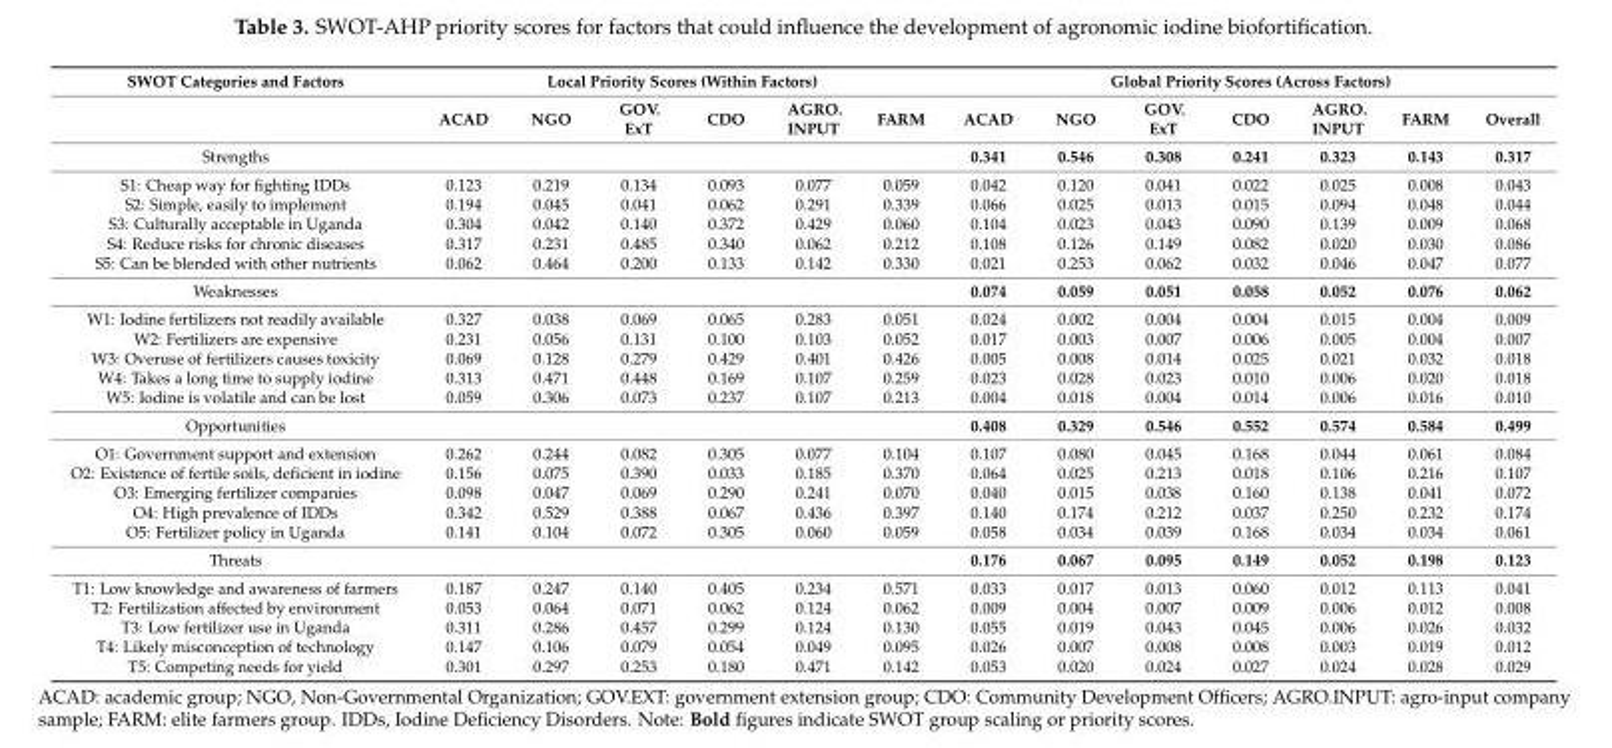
<table><thead><tr><td rowspan="2">SWOT Categories and Factors</td><td colspan="6">Local Priority Scores (Within Factors)</td><td colspan="7">Global Priority Scores (Across Factors)</td></tr><tr><td>ACAD</td><td>NGO</td><td>GOV. ExT</td><td>CDO</td><td>AGRO. INPUT</td><td>FARM</td><td>ACAD</td><td>NGO</td><td>GOV. ExT</td><td>CDO</td><td>AGRO. INPUT</td><td>FARM</td><td>Overall</td></tr></thead><tbody><tr><td>Strengths</td><td></td><td></td><td></td><td></td><td></td><td></td><td>0.341</td><td>0.546</td><td>0.308</td><td>0.241</td><td>0.323</td><td>0.143</td><td>0.317</td></tr><tr><td>S1: Cheap way for fighting IDDs</td><td>0.123</td><td>0.219</td><td>0.134</td><td>0.093</td><td>0.077</td><td>0.059</td><td>0.042</td><td>0.120</td><td>0.041</td><td>0.022</td><td>0.025</td><td>0.008</td><td>0.043</td></tr><tr><td>S2: Simple, easily to implement</td><td>0.194</td><td>0.045</td><td>0.041</td><td>0.062</td><td>0.291</td><td>0.339</td><td>0.066</td><td>0.025</td><td>0.013</td><td>0.015</td><td>0.094</td><td>0.048</td><td>0.044</td></tr><tr><td>S3: Culturally acceptable in Uganda</td><td>0.304</td><td>0.042</td><td>0.140</td><td>0.372</td><td>0.429</td><td>0.060</td><td>0.104</td><td>0.023</td><td>0.043</td><td>0.090</td><td>0.139</td><td>0.009</td><td>0.068</td></tr><tr><td>S4: Reduce risks for chronic diseases</td><td>0.317</td><td>0.231</td><td>0.485</td><td>0.340</td><td>0.062</td><td>0.212</td><td>0.108</td><td>0.126</td><td>0.149</td><td>0.082</td><td>0.020</td><td>0.030</td><td>0.086</td></tr><tr><td>S5: Can be blended with other nutrients</td><td>0.062</td><td>0.464</td><td>0.200</td><td>0.133</td><td>0.142</td><td>0.330</td><td>0.021</td><td>0.253</td><td>0.062</td><td>0.032</td><td>0.046</td><td>0.047</td><td>0.077</td></tr><tr><td>Weaknesses</td><td></td><td></td><td></td><td></td><td></td><td></td><td>0.074</td><td>0.059</td><td>0.051</td><td>0.058</td><td>0.052</td><td>0.076</td><td>0.062</td></tr><tr><td>W1: Iodine fertilizers not readily available</td><td>0.327</td><td>0.038</td><td>0.069</td><td>0.065</td><td>0.283</td><td>0.051</td><td>0.024</td><td>0.002</td><td>0.004</td><td>0.004</td><td>0.015</td><td>0.004</td><td>0.009</td></tr><tr><td>W2: Fertilizers are expensive</td><td>0.231</td><td>0.056</td><td>0.131</td><td>0.100</td><td>0.103</td><td>0.052</td><td>0.017</td><td>0.003</td><td>0.007</td><td>0.006</td><td>0.005</td><td>0.004</td><td>0.007</td></tr><tr><td>W3: Overuse of fertilizers causes toxicity</td><td>0.069</td><td>0.128</td><td>0.279</td><td>0.429</td><td>0.401</td><td>0.426</td><td>0.005</td><td>0.008</td><td>0.014</td><td>0.025</td><td>0.021</td><td>0.032</td><td>0.018</td></tr><tr><td>W4: Takes a long time to supply iodine</td><td>0.313</td><td>0.471</td><td>0.448</td><td>0.169</td><td>0.107</td><td>0.259</td><td>0.023</td><td>0.028</td><td>0.023</td><td>0.010</td><td>0.006</td><td>0.020</td><td>0.018</td></tr><tr><td>W5: Iodine is volatile and can be lost</td><td>0.059</td><td>0.306</td><td>0.073</td><td>0.237</td><td>0.107</td><td>0.213</td><td>0.004</td><td>0.018</td><td>0.004</td><td>0.014</td><td>0.006</td><td>0.016</td><td>0.010</td></tr><tr><td>Opportunities</td><td></td><td></td><td></td><td></td><td></td><td></td><td>0.408</td><td>0.329</td><td>0.546</td><td>0.552</td><td>0.574</td><td>0.584</td><td>0.499</td></tr><tr><td>O1: Government support and extension</td><td>0.262</td><td>0.244</td><td>0.082</td><td>0.305</td><td>0.077</td><td>0.104</td><td>0.107</td><td>0.080</td><td>0.045</td><td>0.168</td><td>0.044</td><td>0.061</td><td>0.084</td></tr><tr><td>O2: Existence of fertile soils, deficient in iodine</td><td>0.156</td><td>0.075</td><td>0.390</td><td>0.033</td><td>0.185</td><td>0.370</td><td>0.064</td><td>0.025</td><td>0.213</td><td>0.018</td><td>0.106</td><td>0.216</td><td>0.107</td></tr><tr><td>O3: Emerging fertilizer companies</td><td>0.098</td><td>0.047</td><td>0.069</td><td>0.290</td><td>0.241</td><td>0.070</td><td>0.040</td><td>0.015</td><td>0.038</td><td>0.160</td><td>0.138</td><td>0.041</td><td>0.072</td></tr><tr><td>O4: High prevalence of IDDs</td><td>0.342</td><td>0.529</td><td>0.388</td><td>0.067</td><td>0.436</td><td>0.397</td><td>0.140</td><td>0.174</td><td>0.212</td><td>0.037</td><td>0.250</td><td>0.232</td><td>0.174</td></tr><tr><td>O5: Fertilizer policy in Uganda</td><td>0.141</td><td>0.104</td><td>0.072</td><td>0.305</td><td>0.060</td><td>0.059</td><td>0.058</td><td>0.034</td><td>0.039</td><td>0.168</td><td>0.034</td><td>0.034</td><td>0.061</td></tr><tr><td>Threats</td><td></td><td></td><td></td><td></td><td></td><td></td><td>0.176</td><td>0.067</td><td>0.095</td><td>0.149</td><td>0.052</td><td>0.198</td><td>0.123</td></tr><tr><td>T1: Low knowledge and awareness of farmers</td><td>0.187</td><td>0.247</td><td>0.140</td><td>0.405</td><td>0.234</td><td>0.571</td><td>0.033</td><td>0.017</td><td>0.013</td><td>0.060</td><td>0.012</td><td>0.113</td><td>0.041</td></tr><tr><td>T2: Fertilization affected by environment</td><td>0.053</td><td>0.064</td><td>0.071</td><td>0.062</td><td>0.124</td><td>0.062</td><td>0.009</td><td>0.004</td><td>0.007</td><td>0.009</td><td>0.006</td><td>0.012</td><td>0.008</td></tr><tr><td>T3: Low fertilizer use in Uganda</td><td>0.311</td><td>0.286</td><td>0.457</td><td>0.299</td><td>0.124</td><td>0.130</td><td>0.055</td><td>0.019</td><td>0.043</td><td>0.045</td><td>0.006</td><td>0.026</td><td>0.032</td></tr><tr><td>T4: Likely misconception of technology</td><td>0.147</td><td>0.106</td><td>0.079</td><td>0.054</td><td>0.049</td><td>0.095</td><td>0.026</td><td>0.007</td><td>0.008</td><td>0.008</td><td>0.003</td><td>0.019</td><td>0.012</td></tr><tr><td>T5: Competing needs for yield</td><td>0.301</td><td>0.297</td><td>0.253</td><td>0.180</td><td>0.471</td><td>0.142</td><td>0.053</td><td>0.020</td><td>0.024</td><td>0.027</td><td>0.024</td><td>0.028</td><td>0.029</td></tr></tbody></table>